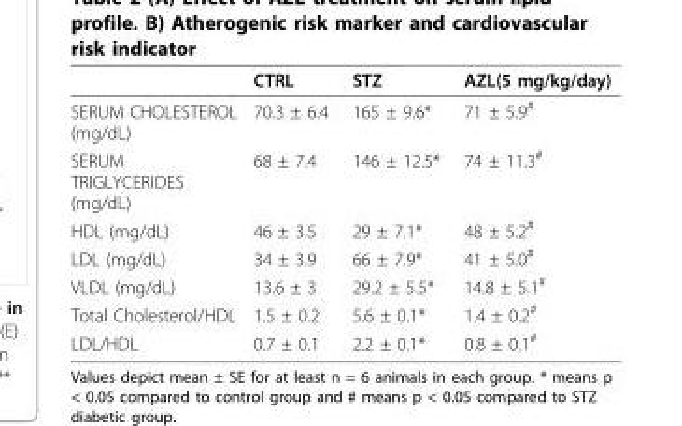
<table><thead><tr><td></td><td>CTRL</td><td>STZ</td><td>AZL(5 mg/kg/day)</td></tr></thead><tbody><tr><td>SERUM CHOLESTEROL (mg/dL)</td><td>70.3 ± 6.4</td><td>165 ± 9.6*</td><td>71 ± 5.9<sup>#</sup></td></tr><tr><td>SERUM TRIGLYCERIDES (mg/dL)</td><td>68 ± 7.4</td><td>146 ± 12.5*</td><td>74 ± 11.3<sup>#</sup></td></tr><tr><td>HDL (mg/dL)</td><td>46 ± 3.5</td><td>29 ± 7.1*</td><td>48 ± 5.2<sup>#</sup></td></tr><tr><td>LDL (mg/dL)</td><td>34 ± 3.9</td><td>66 ± 7.9*</td><td>41 ± 5.0<sup>#</sup></td></tr><tr><td>VLDL (mg/dL)</td><td>13.6 ± 3</td><td>29.2 ± 5.5*</td><td>14.8 ± 5.1<sup>#</sup></td></tr><tr><td>Total Cholesterol/HDL</td><td>1.5 ± 0.2</td><td>5.6 ± 0.1*</td><td>1.4 ± 0.2<sup>#</sup></td></tr><tr><td>LDL/HDL</td><td>0.7 ± 0.1</td><td>2.2 ± 0.1*</td><td>0.8 ± 0.1<sup>#</sup></td></tr></tbody></table>